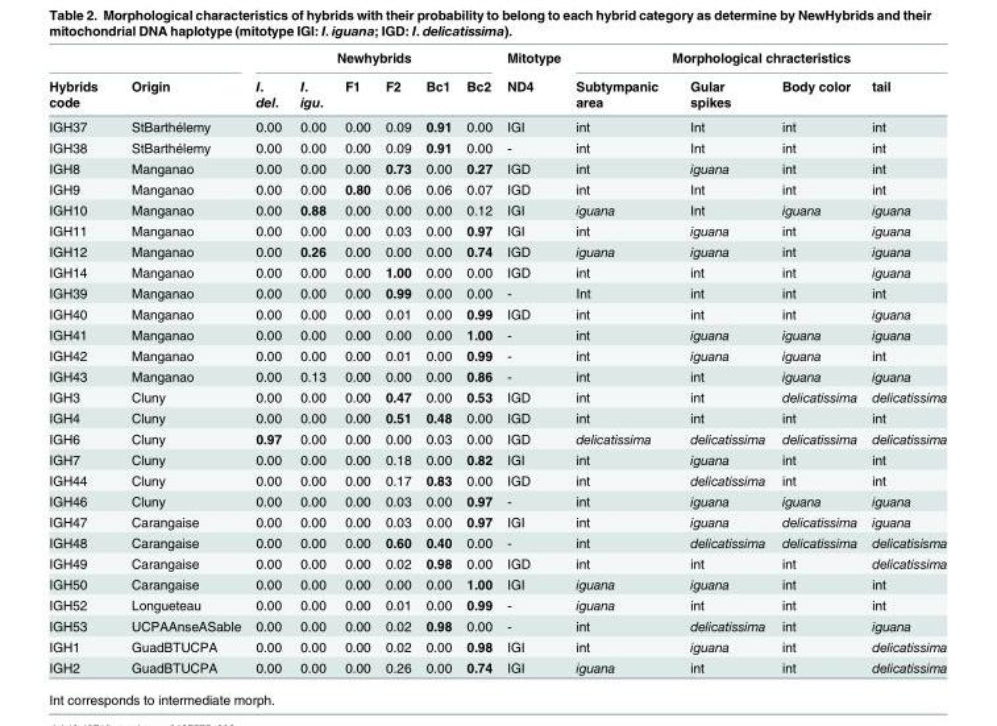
<table><thead><tr><td rowspan="2">Hybrids code</td><td rowspan="2">Origin</td><td colspan="6">Newhybrids</td><td rowspan="2">Mitotype ND4</td><td colspan="4">Morphological chracteristics</td></tr><tr><td>I. del.</td><td>I. igu.</td><td>F1</td><td>F2</td><td>Bc1</td><td>Bc2</td><td>Subtympanic area</td><td>Gular spikes</td><td>Body color</td><td>tail</td></tr></thead><tbody><tr><td>IGH37</td><td>StBarthélemy</td><td>0.00</td><td>0.00</td><td>0.00</td><td>0.09</td><td>0.91</td><td>0.00</td><td>IGI</td><td>int</td><td>Int</td><td>int</td><td>int</td></tr><tr><td>IGH38</td><td>StBarthélemy</td><td>0.00</td><td>0.00</td><td>0.00</td><td>0.09</td><td>0.91</td><td>0.00</td><td>-</td><td>int</td><td>Int</td><td>int</td><td>int</td></tr><tr><td>IGH8</td><td>Manganao</td><td>0.00</td><td>0.00</td><td>0.00</td><td>0.73</td><td>0.00</td><td>0.27</td><td>IGD</td><td>int</td><td>iguana</td><td>int</td><td>int</td></tr><tr><td>IGH9</td><td>Manganao</td><td>0.00</td><td>0.00</td><td>0.80</td><td>0.06</td><td>0.06</td><td>0.07</td><td>IGD</td><td>int</td><td>Int</td><td>int</td><td>int</td></tr><tr><td>IGH10</td><td>Manganao</td><td>0.00</td><td>0.88</td><td>0.00</td><td>0.00</td><td>0.00</td><td>0.12</td><td>IGI</td><td>iguana</td><td>Int</td><td>iguana</td><td>iguana</td></tr><tr><td>IGH11</td><td>Manganao</td><td>0.00</td><td>0.00</td><td>0.00</td><td>0.03</td><td>0.00</td><td>0.97</td><td>IGI</td><td>int</td><td>iguana</td><td>int</td><td>iguana</td></tr><tr><td>IGH12</td><td>Manganao</td><td>0.00</td><td>0.26</td><td>0.00</td><td>0.00</td><td>0.00</td><td>0.74</td><td>IGD</td><td>iguana</td><td>iguana</td><td>int</td><td>iguana</td></tr><tr><td>IGH14</td><td>Manganao</td><td>0.00</td><td>0.00</td><td>0.00</td><td>1.00</td><td>0.00</td><td>0.00</td><td>IGD</td><td>int</td><td>int</td><td>int</td><td>iguana</td></tr><tr><td>IGH39</td><td>Manganao</td><td>0.00</td><td>0.00</td><td>0.00</td><td>0.99</td><td>0.00</td><td>0.00</td><td>-</td><td>Int</td><td>int</td><td>int</td><td>int</td></tr><tr><td>IGH40</td><td>Manganao</td><td>0.00</td><td>0.00</td><td>0.00</td><td>0.01</td><td>0.00</td><td>0.99</td><td>IGD</td><td>int</td><td>int</td><td>int</td><td>iguana</td></tr><tr><td>IGH41</td><td>Manganao</td><td>0.00</td><td>0.00</td><td>0.00</td><td>0.00</td><td>0.00</td><td>1.00</td><td>-</td><td>int</td><td>iguana</td><td>iguana</td><td>iguana</td></tr><tr><td>IGH42</td><td>Manganao</td><td>0.00</td><td>0.00</td><td>0.00</td><td>0.01</td><td>0.00</td><td>0.99</td><td>-</td><td>int</td><td>iguana</td><td>iguana</td><td>int</td></tr><tr><td>IGH43</td><td>Manganao</td><td>0.00</td><td>0.13</td><td>0.00</td><td>0.00</td><td>0.00</td><td>0.86</td><td>-</td><td>int</td><td>int</td><td>iguana</td><td>iguana</td></tr><tr><td>IGH3</td><td>Cluny</td><td>0.00</td><td>0.00</td><td>0.00</td><td>0.47</td><td>0.00</td><td>0.53</td><td>IGD</td><td>int</td><td>int</td><td>delicatissima</td><td>delicatissima</td></tr><tr><td>IGH4</td><td>Cluny</td><td>0.00</td><td>0.00</td><td>0.00</td><td>0.51</td><td>0.48</td><td>0.00</td><td>IGD</td><td>int</td><td>int</td><td>int</td><td>int</td></tr><tr><td>IGH6</td><td>Cluny</td><td>0.97</td><td>0.00</td><td>0.00</td><td>0.00</td><td>0.03</td><td>0.00</td><td>IGD</td><td>delicatissima</td><td>delicatissima</td><td>delicatissima</td><td>delicatissima</td></tr><tr><td>IGH7</td><td>Cluny</td><td>0.00</td><td>0.00</td><td>0.00</td><td>0.18</td><td>0.00</td><td>0.82</td><td>IGI</td><td>int</td><td>iguana</td><td>int</td><td>int</td></tr><tr><td>IGH44</td><td>Cluny</td><td>0.00</td><td>0.00</td><td>0.00</td><td>0.17</td><td>0.83</td><td>0.00</td><td>IGD</td><td>int</td><td>delicatissima</td><td>int</td><td>int</td></tr><tr><td>IGH46</td><td>Cluny</td><td>0.00</td><td>0.00</td><td>0.00</td><td>0.03</td><td>0.00</td><td>0.97</td><td>-</td><td>int</td><td>iguana</td><td>iguana</td><td>iguana</td></tr><tr><td>IGH47</td><td>Carangaise</td><td>0.00</td><td>0.00</td><td>0.00</td><td>0.03</td><td>0.00</td><td>0.97</td><td>IGI</td><td>int</td><td>iguana</td><td>delicatissima</td><td>iguana</td></tr><tr><td>IGH48</td><td>Carangaise</td><td>0.00</td><td>0.00</td><td>0.00</td><td>0.60</td><td>0.40</td><td>0.00</td><td>-</td><td>int</td><td>delicatissima</td><td>delicatissima</td><td>delicatisisma</td></tr><tr><td>IGH49</td><td>Carangaise</td><td>0.00</td><td>0.00</td><td>0.00</td><td>0.02</td><td>0.98</td><td>0.00</td><td>IGD</td><td>int</td><td>int</td><td>int</td><td>delicatissima</td></tr><tr><td>IGH50</td><td>Carangaise</td><td>0.00</td><td>0.00</td><td>0.00</td><td>0.00</td><td>0.00</td><td>1.00</td><td>IGI</td><td>iguana</td><td>iguana</td><td>int</td><td>int</td></tr><tr><td>IGH52</td><td>Longueteau</td><td>0.00</td><td>0.00</td><td>0.00</td><td>0.01</td><td>0.00</td><td>0.99</td><td>-</td><td>iguana</td><td>int</td><td>int</td><td>int</td></tr><tr><td>IGH53</td><td>UCPAAnseASable</td><td>0.00</td><td>0.00</td><td>0.00</td><td>0.02</td><td>0.98</td><td>0.00</td><td>-</td><td>int</td><td>delicatissima</td><td>int</td><td>iguana</td></tr><tr><td>IGH1</td><td>GuadBTUCPA</td><td>0.00</td><td>0.00</td><td>0.00</td><td>0.02</td><td>0.00</td><td>0.98</td><td>IGI</td><td>int</td><td>iguana</td><td>int</td><td>delicatissima</td></tr><tr><td>IGH2</td><td>GuadBTUCPA</td><td>0.00</td><td>0.00</td><td>0.00</td><td>0.26</td><td>0.00</td><td>0.74</td><td>IGI</td><td>iguana</td><td>int</td><td>int</td><td>delicatissima</td></tr></tbody></table>